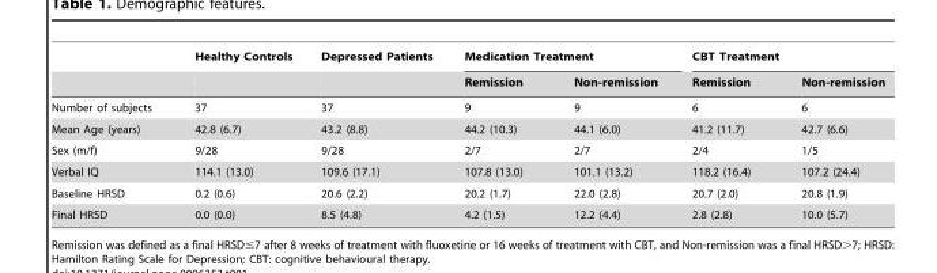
<table><thead><tr><td rowspan="2"></td><td rowspan="2">Healthy Controls</td><td rowspan="2">Depressed Patients</td><td colspan="2">Medication Treatment</td><td colspan="2">CBT Treatment</td></tr><tr><td>Remission</td><td>Non-remission</td><td>Remission</td><td>Non-remission</td></tr></thead><tbody><tr><td>Number of subjects</td><td>37</td><td>37</td><td>9</td><td>9</td><td>6</td><td>6</td></tr><tr><td>Mean Age (years)</td><td>42.8 (6.7)</td><td>43.2 (8.8)</td><td>44.2 (10.3)</td><td>44.1 (6.0)</td><td>41.2 (11.7)</td><td>42.7 (6.6)</td></tr><tr><td>Sex (m/f)</td><td>9/28</td><td>9/28</td><td>2/7</td><td>2/7</td><td>2/4</td><td>1/5</td></tr><tr><td>Verbal IQ</td><td>114.1 (13.0)</td><td>109.6 (17.1)</td><td>107.8 (13.0)</td><td>101.1 (13.2)</td><td>118.2 (16.4)</td><td>107.2 (24.4)</td></tr><tr><td>Baseline HRSD</td><td>0.2 (0.6)</td><td>20.6 (2.2)</td><td>20.2 (1.7)</td><td>22.0 (2.8)</td><td>20.7 (2.0)</td><td>20.8 (1.9)</td></tr><tr><td>Final HRSD</td><td>0.0 (0.0)</td><td>8.5 (4.8)</td><td>4.2 (1.5)</td><td>12.2 (4.4)</td><td>2.8 (2.8)</td><td>10.0 (5.7)</td></tr></tbody></table>